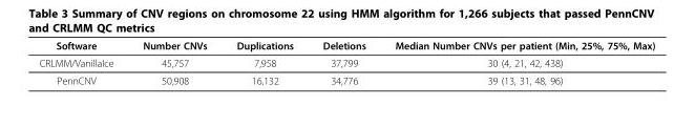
<table><thead><tr><td>Software</td><td>Number CNVs</td><td>Duplications</td><td>Deletions</td><td>Median Number CNVs per patient (Min, 25%, 75%, Max)</td></tr></thead><tbody><tr><td>CRLMM/VanillaIce</td><td>45,757</td><td>7,958</td><td>37,799</td><td>30 (4, 21, 42, 438)</td></tr><tr><td>PennCNV</td><td>50,908</td><td>16,132</td><td>34,776</td><td>39 (13, 31, 48, 96)</td></tr></tbody></table>